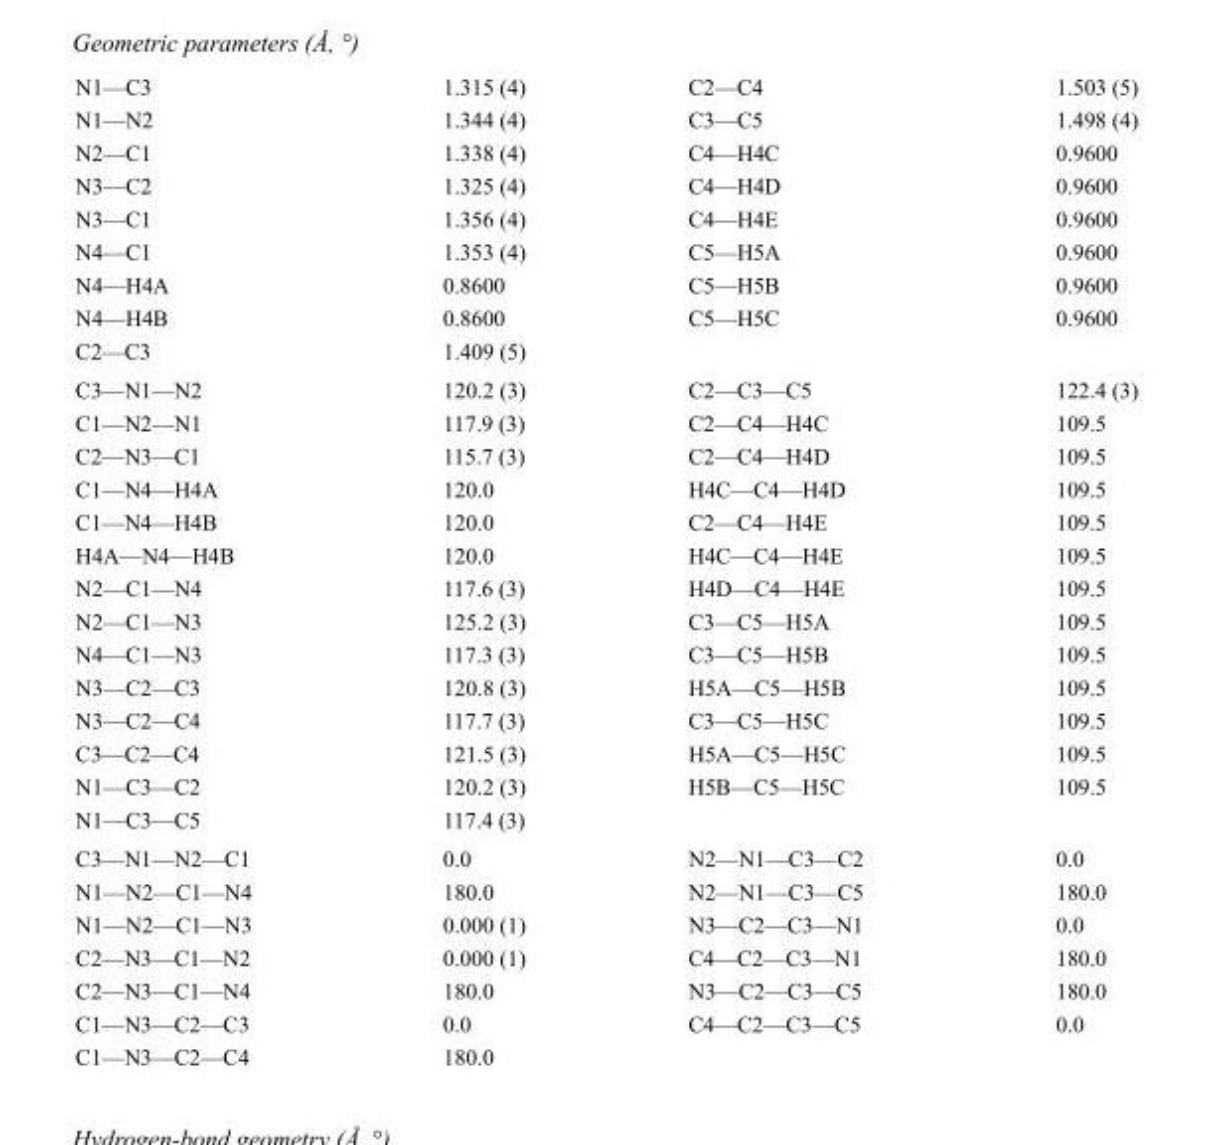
<table><tbody><tr><td>N1—C3</td><td>1.315 (4)</td><td>C2—C4</td><td>1.503 (5)</td></tr><tr><td>N1—N2</td><td>1.344 (4)</td><td>C3—C5</td><td>1.498 (4)</td></tr><tr><td>N2—C1</td><td>1.338 (4)</td><td>C4—H4C</td><td>0.9600</td></tr><tr><td>N3—C2</td><td>1.325 (4)</td><td>C4—H4D</td><td>0.9600</td></tr><tr><td>N3—C1</td><td>1.356 (4)</td><td>C4—H4E</td><td>0.9600</td></tr><tr><td>N4—C1</td><td>1.353 (4)</td><td>C5—H5A</td><td>0.9600</td></tr><tr><td>N4—H4A</td><td>0.8600</td><td>C5—H5B</td><td>0.9600</td></tr><tr><td>N4—H4B</td><td>0.8600</td><td>C5—H5C</td><td>0.9600</td></tr><tr><td>C2—C3</td><td>1.409 (5)</td><td></td><td></td></tr><tr><td>C3—N1—N2</td><td>120.2 (3)</td><td>C2—C3—C5</td><td>122.4 (3)</td></tr><tr><td>C1—N2—N1</td><td>117.9 (3)</td><td>C2—C4—H4C</td><td>109.5</td></tr><tr><td>C2—N3—C1</td><td>115.7 (3)</td><td>C2—C4—H4D</td><td>109.5</td></tr><tr><td>C1—N4—H4A</td><td>120.0</td><td>H4C—C4—H4D</td><td>109.5</td></tr><tr><td>C1—N4—H4B</td><td>120.0</td><td>C2—C4—H4E</td><td>109.5</td></tr><tr><td>H4A—N4—H4B</td><td>120.0</td><td>H4C—C4—H4E</td><td>109.5</td></tr><tr><td>N2—C1—N4</td><td>117.6 (3)</td><td>H4D—C4—H4E</td><td>109.5</td></tr><tr><td>N2—C1—N3</td><td>125.2 (3)</td><td>C3—C5—H5A</td><td>109.5</td></tr><tr><td>N4—C1—N3</td><td>117.3 (3)</td><td>C3—C5—H5B</td><td>109.5</td></tr><tr><td>N3—C2—C3</td><td>120.8 (3)</td><td>H5A—C5—H5B</td><td>109.5</td></tr><tr><td>N3—C2—C4</td><td>117.7 (3)</td><td>C3—C5—H5C</td><td>109.5</td></tr><tr><td>C3—C2—C4</td><td>121.5 (3)</td><td>H5A—C5—H5C</td><td>109.5</td></tr><tr><td>N1—C3—C2</td><td>120.2 (3)</td><td>H5B—C5—H5C</td><td>109.5</td></tr><tr><td>N1—C3—C5</td><td>117.4 (3)</td><td></td><td></td></tr><tr><td>C3—N1—N2—C1</td><td>0.0</td><td>N2—N1—C3—C2</td><td>0.0</td></tr><tr><td>N1—N2—C1—N4</td><td>180.0</td><td>N2—N1—C3—C5</td><td>180.0</td></tr><tr><td>N1—N2—C1—N3</td><td>0.000 (1)</td><td>N3—C2—C3—N1</td><td>0.0</td></tr><tr><td>C2—N3—C1—N2</td><td>0.000 (1)</td><td>C4—C2—C3—N1</td><td>180.0</td></tr><tr><td>C2—N3—C1—N4</td><td>180.0</td><td>N3—C2—C3—C5</td><td>180.0</td></tr><tr><td>C1—N3—C2—C3</td><td>0.0</td><td>C4—C2—C3—C5</td><td>0.0</td></tr><tr><td>C1—N3—C2—C4</td><td>180.0</td><td></td><td></td></tr></tbody></table>